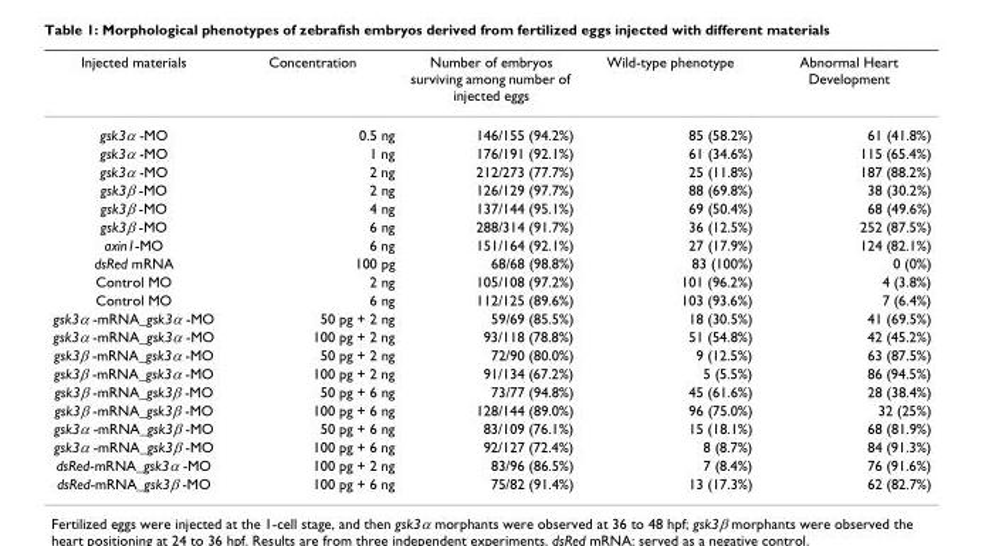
<table><thead><tr><td>Injected materials</td><td>Concentration</td><td>Number of embryos surviving among number of injected eggs</td><td>Wild-type phenotype</td><td>Abnormal Heart Development</td></tr></thead><tbody><tr><td>gsk3α -MO</td><td>0.5 ng</td><td>146/155 (94.2%)</td><td>85 (58.2%)</td><td>61 (41.8%)</td></tr><tr><td>gsk3α -MO</td><td>1 ng</td><td>176/191 (92.1%)</td><td>61 (34.6%)</td><td>115 (65.4%)</td></tr><tr><td>gsk3α -MO</td><td>2 ng</td><td>212/273 (77.7%)</td><td>25 (11.8%)</td><td>187 (88.2%)</td></tr><tr><td>gsk3β -MO</td><td>2 ng</td><td>126/129 (97.7%)</td><td>88 (69.8%)</td><td>38 (30.2%)</td></tr><tr><td>gsk3β -MO</td><td>4 ng</td><td>137/144 (95.1%)</td><td>69 (50.4%)</td><td>68 (49.6%)</td></tr><tr><td>gsk3β -MO</td><td>6 ng</td><td>288/314 (91.7%)</td><td>36 (12.5%)</td><td>252 (87.5%)</td></tr><tr><td>axin1-MO</td><td>6 ng</td><td>151/164 (92.1%)</td><td>27 (17.9%)</td><td>124 (82.1%)</td></tr><tr><td>dsRed mRNA</td><td>100 pg</td><td>68/68 (98.8%)</td><td>83 (100%)</td><td>0 (0%)</td></tr><tr><td>Control MO</td><td>2 ng</td><td>105/108 (97.2%)</td><td>101 (96.2%)</td><td>4 (3.8%)</td></tr><tr><td>Control MO</td><td>6 ng</td><td>112/125 (89.6%)</td><td>103 (93.6%)</td><td>7 (6.4%)</td></tr><tr><td>gsk3α -mRNA_gsk3α -MO</td><td>50 pg + 2 ng</td><td>59/69 (85.5%)</td><td>18 (30.5%)</td><td>41 (69.5%)</td></tr><tr><td>gsk3α -mRNA_gsk3α -MO</td><td>100 pg + 2 ng</td><td>93/118 (78.8%)</td><td>51 (54.8%)</td><td>42 (45.2%)</td></tr><tr><td>gsk3β -mRNA_gsk3α -MO</td><td>50 pg + 2 ng</td><td>72/90 (80.0%)</td><td>9 (12.5%)</td><td>63 (87.5%)</td></tr><tr><td>gsk3β -mRNA_gsk3α -MO</td><td>100 pg + 2 ng</td><td>91/134 (67.2%)</td><td>5 (5.5%)</td><td>86 (94.5%)</td></tr><tr><td>gsk3β -mRNA_gsk3β -MO</td><td>50 pg + 6 ng</td><td>73/77 (94.8%)</td><td>45 (61.6%)</td><td>28 (38.4%)</td></tr><tr><td>gsk3β -mRNA_gsk3β -MO</td><td>100 pg + 6 ng</td><td>128/144 (89.0%)</td><td>96 (75.0%)</td><td>32 (25%)</td></tr><tr><td>gsk3α -mRNA_gsk3β -MO</td><td>50 pg + 6 ng</td><td>83/109 (76.1%)</td><td>15 (18.1%)</td><td>68 (81.9%)</td></tr><tr><td>gsk3α -mRNA_gsk3β -MO</td><td>100 pg + 6 ng</td><td>92/127 (72.4%)</td><td>8 (8.7%)</td><td>84 (91.3%)</td></tr><tr><td>dsRed-mRNA_gsk3α -MO</td><td>100 pg + 2 ng</td><td>83/96 (86.5%)</td><td>7 (8.4%)</td><td>76 (91.6%)</td></tr><tr><td>dsRed-mRNA_gsk3β -MO</td><td>100 pg + 6 ng</td><td>75/82 (91.4%)</td><td>13 (17.3%)</td><td>62 (82.7%)</td></tr></tbody></table>